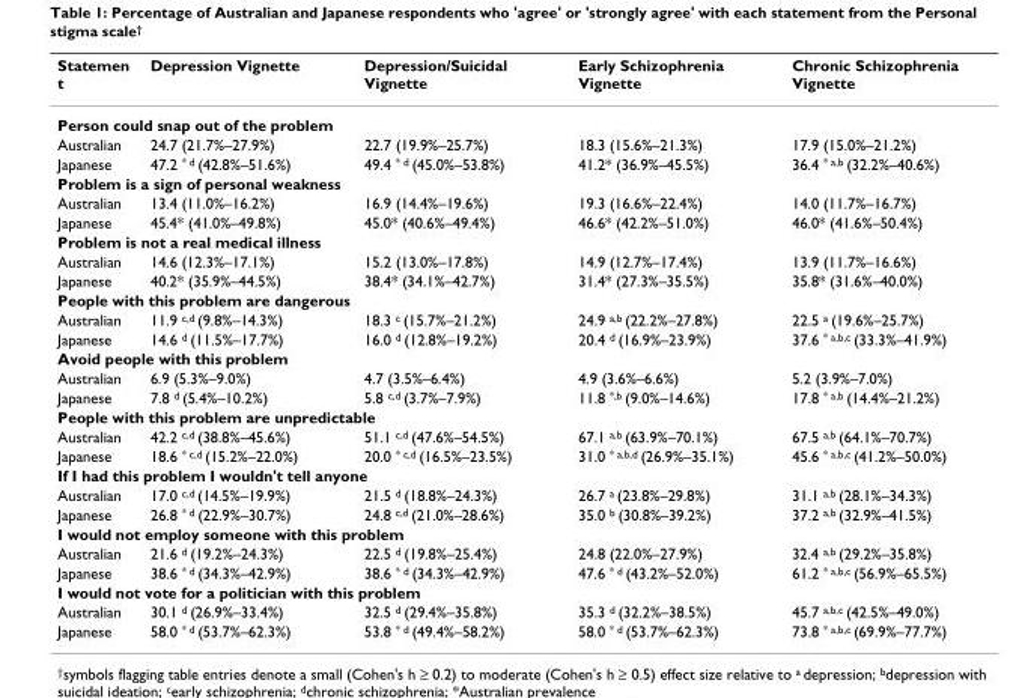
<table><thead><tr><td>Statemen t</td><td>Depression Vignette</td><td>Depression/Suicidal Vignette</td><td>Early Schizophrenia Vignette</td><td>Chronic Schizophrenia Vignette</td></tr></thead><tbody><tr><td colspan="5">Person could snap out of the problem</td></tr><tr><td>Australian</td><td>24.7 (21.7%–27.9%)</td><td>22.7 (19.9%–25.7%)</td><td>18.3 (15.6%–21.3%)</td><td>17.9 (15.0%–21.2%)</td></tr><tr><td>Japanese</td><td>47.2 <sup>* d</sup> (42.8%–51.6%)</td><td>49.4 <sup>* d</sup> (45.0%–53.8%)</td><td>41.2* (36.9%–45.5%)</td><td>36.4 <sup>* a,b</sup> (32.2%–40.6%)</td></tr><tr><td colspan="5">Problem is a sign of personal weakness</td></tr><tr><td>Australian</td><td>13.4 (11.0%–16.2%)</td><td>16.9 (14.4%–19.6%)</td><td>19.3 (16.6%–22.4%)</td><td>14.0 (11.7%–16.7%)</td></tr><tr><td>Japanese</td><td>45.4* (41.0%–49.8%)</td><td>45.0* (40.6%–49.4%)</td><td>46.6* (42.2%–51.0%)</td><td>46.0* (41.6%–50.4%)</td></tr><tr><td colspan="5">Problem is not a real medical illness</td></tr><tr><td>Australian</td><td>14.6 (12.3%–17.1%)</td><td>15.2 (13.0%–17.8%)</td><td>14.9 (12.7%–17.4%)</td><td>13.9 (11.7%–16.6%)</td></tr><tr><td>Japanese</td><td>40.2* (35.9%–44.5%)</td><td>38.4* (34.1%–42.7%)</td><td>31.4* (27.3%–35.5%)</td><td>35.8* (31.6%–40.0%)</td></tr><tr><td colspan="5">People with this problem are dangerous</td></tr><tr><td>Australian</td><td>11.9 <sup>c,d</sup> (9.8%–14.3%)</td><td>18.3 <sup>c</sup> (15.7%–21.2%)</td><td>24.9 <sup>a,b</sup> (22.2%–27.8%)</td><td>22.5 <sup>a</sup> (19.6%–25.7%)</td></tr><tr><td>Japanese</td><td>14.6 <sup>d</sup> (11.5%–17.7%)</td><td>16.0 <sup>d</sup> (12.8%–19.2%)</td><td>20.4 <sup>d</sup> (16.9%–23.9%)</td><td>37.6 <sup>* a,b,c</sup> (33.3%–41.9%)</td></tr><tr><td colspan="5">Avoid people with this problem</td></tr><tr><td>Australian</td><td>6.9 (5.3%–9.0%)</td><td>4.7 (3.5%–6.4%)</td><td>4.9 (3.6%–6.6%)</td><td>5.2 (3.9%–7.0%)</td></tr><tr><td>Japanese</td><td>7.8 <sup>d</sup> (5.4%–10.2%)</td><td>5.8 <sup>c,d</sup> (3.7%–7.9%)</td><td>11.8 <sup>*,b</sup> (9.0%–14.6%)</td><td>17.8 <sup>* a,b</sup> (14.4%–21.2%)</td></tr><tr><td colspan="5">People with this problem are unpredictable</td></tr><tr><td>Australian</td><td>42.2 <sup>c,d</sup> (38.8%–45.6%)</td><td>51.1 <sup>c,d</sup> (47.6%–54.5%)</td><td>67.1 <sup>a,b</sup> (63.9%–70.1%)</td><td>67.5 <sup>a,b</sup> (64.1%–70.7%)</td></tr><tr><td>Japanese</td><td>18.6 <sup>* c,d</sup> (15.2%–22.0%)</td><td>20.0 <sup>* c,d</sup> (16.5%–23.5%)</td><td>31.0 <sup>* a,b,d</sup> (26.9%–35.1%)</td><td>45.6 <sup>* a,b,c</sup> (41.2%–50.0%)</td></tr><tr><td colspan="5">If I had this problem I wouldn&#x27;t tell anyone</td></tr><tr><td>Australian</td><td>17.0 <sup>c,d</sup> (14.5%–19.9%)</td><td>21.5 <sup>d</sup> (18.8%–24.3%)</td><td>26.7 <sup>a</sup> (23.8%–29.8%)</td><td>31.1 <sup>a,b</sup> (28.1%–34.3%)</td></tr><tr><td>Japanese</td><td>26.8 <sup>* d</sup> (22.9%–30.7%)</td><td>24.8 <sup>c,d</sup> (21.0%–28.6%)</td><td>35.0 <sup>b</sup> (30.8%–39.2%)</td><td>37.2 <sup>a,b</sup> (32.9%–41.5%)</td></tr><tr><td colspan="5">I would not employ someone with this problem</td></tr><tr><td>Australian</td><td>21.6 <sup>d</sup> (19.2%–24.3%)</td><td>22.5 <sup>d</sup> (19.8%–25.4%)</td><td>24.8 (22.0%–27.9%)</td><td>32.4 <sup>a,b</sup> (29.2%–35.8%)</td></tr><tr><td>Japanese</td><td>38.6 <sup>* d</sup> (34.3%–42.9%)</td><td>38.6 <sup>* d</sup> (34.3%–42.9%)</td><td>47.6 <sup>* d</sup> (43.2%–52.0%)</td><td>61.2 <sup>* a,b,c</sup> (56.9%–65.5%)</td></tr><tr><td colspan="5">I would not vote for a politician with this problem</td></tr><tr><td>Australian</td><td>30.1 <sup>d</sup> (26.9%–33.4%)</td><td>32.5 <sup>d</sup> (29.4%–35.8%)</td><td>35.3 <sup>d</sup> (32.2%–38.5%)</td><td>45.7 <sup>a,b,c</sup> (42.5%–49.0%)</td></tr><tr><td>Japanese</td><td>58.0 <sup>* d</sup> (53.7%–62.3%)</td><td>53.8 <sup>* d</sup> (49.4%–58.2%)</td><td>58.0 <sup>* d</sup> (53.7%–62.3%)</td><td>73.8 <sup>* a,b,c</sup> (69.9%–77.7%)</td></tr></tbody></table>